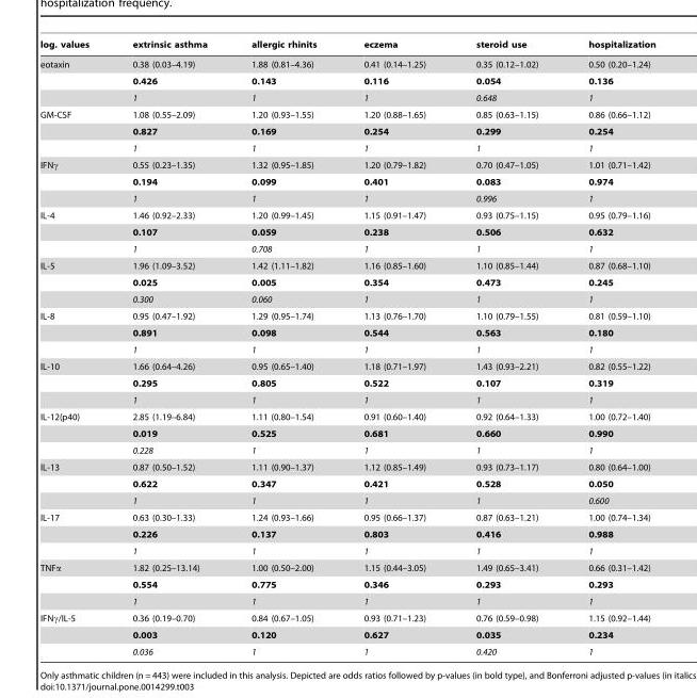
<table><thead><tr><td>log. values</td><td>extrinsic asthma</td><td>allergic rhinits</td><td>eczema</td><td>steroid use</td><td>hospitalization</td></tr></thead><tbody><tr><td rowspan="3">eotaxin</td><td>0.38 (0.03–4.19)</td><td>1.88 (0.81–4.36)</td><td>0.41 (0.14–1.25)</td><td>0.35 (0.12–1.02)</td><td>0.50 (0.20–1.24)</td></tr><tr><td>0.426</td><td>0.143</td><td>0.116</td><td>0.054</td><td>0.136</td></tr><tr><td>1</td><td>1</td><td>1</td><td>0.648</td><td>1</td></tr><tr><td rowspan="3">GM-CSF</td><td>1.08 (0.55–2.09)</td><td>1.20 (0.93–1.55)</td><td>1.20 (0.88–1.65)</td><td>0.85 (0.63–1.15)</td><td>0.86 (0.66–1.12)</td></tr><tr><td>0.827</td><td>0.169</td><td>0.254</td><td>0.299</td><td>0.254</td></tr><tr><td>1</td><td>1</td><td>1</td><td>1</td><td>1</td></tr><tr><td rowspan="3">IFNγ</td><td>0.55 (0.23–1.35)</td><td>1.32 (0.95–1.85)</td><td>1.20 (0.79–1.82)</td><td>0.70 (0.47–1.05)</td><td>1.01 (0.71–1.42)</td></tr><tr><td>0.194</td><td>0.099</td><td>0.401</td><td>0.083</td><td>0.974</td></tr><tr><td>1</td><td>1</td><td>1</td><td>0.996</td><td>1</td></tr><tr><td rowspan="3">IL-4</td><td>1.46 (0.92–2.33)</td><td>1.20 (0.99–1.45)</td><td>1.15 (0.91–1.47)</td><td>0.93 (0.75–1.15)</td><td>0.95 (0.79–1.16)</td></tr><tr><td>0.107</td><td>0.059</td><td>0.238</td><td>0.506</td><td>0.632</td></tr><tr><td>1</td><td>0.708</td><td>1</td><td>1</td><td>1</td></tr><tr><td rowspan="3">IL-5</td><td>1.96 (1.09–3.52)</td><td>1.42 (1.11–1.82)</td><td>1.16 (0.85–1.60)</td><td>1.10 (0.85–1.44)</td><td>0.87 (0.68–1.10)</td></tr><tr><td>0.025</td><td>0.005</td><td>0.354</td><td>0.473</td><td>0.245</td></tr><tr><td>0.300</td><td>0.060</td><td>1</td><td>1</td><td>1</td></tr><tr><td rowspan="3">IL-8</td><td>0.95 (0.47–1.92)</td><td>1.29 (0.95–1.74)</td><td>1.13 (0.76–1.70)</td><td>1.10 (0.79–1.55)</td><td>0.81 (0.59–1.10)</td></tr><tr><td>0.891</td><td>0.098</td><td>0.544</td><td>0.563</td><td>0.180</td></tr><tr><td>1</td><td>1</td><td>1</td><td>1</td><td>1</td></tr><tr><td rowspan="3">IL-10</td><td>1.66 (0.64–4.26)</td><td>0.95 (0.65–1.40)</td><td>1.18 (0.71–1.97)</td><td>1.43 (0.93–2.21)</td><td>0.82 (0.55–1.22)</td></tr><tr><td>0.295</td><td>0.805</td><td>0.522</td><td>0.107</td><td>0.319</td></tr><tr><td>1</td><td>1</td><td>1</td><td>1</td><td>1</td></tr><tr><td rowspan="3">IL-12(p40)</td><td>2.85 (1.19–6.84)</td><td>1.11 (0.80–1.54)</td><td>0.91 (0.60–1.40)</td><td>0.92 (0.64–1.33)</td><td>1.00 (0.72–1.40)</td></tr><tr><td>0.019</td><td>0.525</td><td>0.681</td><td>0.660</td><td>0.990</td></tr><tr><td>0.228</td><td>1</td><td>1</td><td>1</td><td>1</td></tr><tr><td rowspan="3">IL-13</td><td>0.87 (0.50–1.52)</td><td>1.11 (0.90–1.37)</td><td>1.12 (0.85–1.49)</td><td>0.93 (0.73–1.17)</td><td>0.80 (0.64–1.00)</td></tr><tr><td>0.622</td><td>0.347</td><td>0.421</td><td>0.528</td><td>0.050</td></tr><tr><td>1</td><td>1</td><td>1</td><td>1</td><td>0.600</td></tr><tr><td rowspan="3">IL-17</td><td>0.63 (0.30–1.33)</td><td>1.24 (0.93–1.66)</td><td>0.95 (0.66–1.37)</td><td>0.87 (0.63–1.21)</td><td>1.00 (0.74–1.34)</td></tr><tr><td>0.226</td><td>0.137</td><td>0.803</td><td>0.416</td><td>0.988</td></tr><tr><td>1</td><td>1</td><td>1</td><td>1</td><td>1</td></tr><tr><td rowspan="3">TNFα</td><td>1.82 (0.25–13.14)</td><td>1.00 (0.50–2.00)</td><td>1.15 (0.44–3.05)</td><td>1.49 (0.65–3.41)</td><td>0.66 (0.31–1.42)</td></tr><tr><td>0.554</td><td>0.775</td><td>0.346</td><td>0.293</td><td>0.293</td></tr><tr><td>1</td><td>1</td><td>1</td><td>1</td><td>1</td></tr><tr><td rowspan="3">IFNγ/IL-5</td><td>0.36 (0.19–0.70)</td><td>0.84 (0.67–1.05)</td><td>0.93 (0.71–1.23)</td><td>0.76 (0.59–0.98)</td><td>1.15 (0.92–1.44)</td></tr><tr><td>0.003</td><td>0.120</td><td>0.627</td><td>0.035</td><td>0.234</td></tr><tr><td>0.036</td><td>1</td><td>1</td><td>0.420</td><td>1</td></tr></tbody></table>